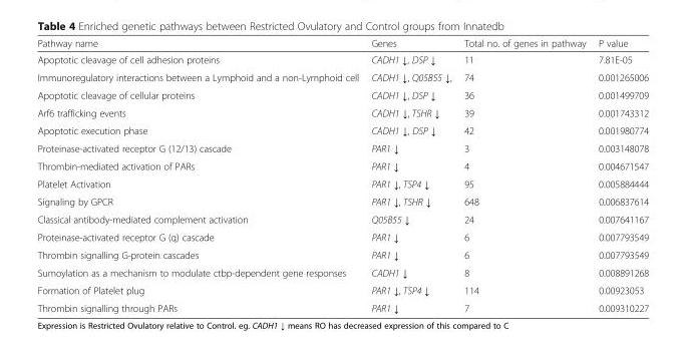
<table><thead><tr><td>Pathway name</td><td>Genes</td><td>Total no. of genes in pathway</td><td>P value</td></tr></thead><tbody><tr><td>Apoptotic cleavage of cell adhesion proteins</td><td>CADH1 ↓, DSP ↓</td><td>11</td><td>7.81E-05</td></tr><tr><td>Immunoregulatory interactions between a Lymphoid and a non-Lymphoid cell</td><td>CADH1 ↓, Q05B55 ↓,</td><td>74</td><td>0.001265006</td></tr><tr><td>Apoptotic cleavage of cellular proteins</td><td>CADH1 ↓, DSP ↓</td><td>36</td><td>0.001499709</td></tr><tr><td>Arf6 trafficking events</td><td>CADH1 ↓, TSHR ↓</td><td>39</td><td>0.001743312</td></tr><tr><td>Apoptotic execution phase</td><td>CADH1 ↓, DSP ↓</td><td>42</td><td>0.001980774</td></tr><tr><td>Proteinase-activated receptor G (12/13) cascade</td><td>PAR1 ↓</td><td>3</td><td>0.003148078</td></tr><tr><td>Thrombin-mediated activation of PARs</td><td>PAR1 ↓</td><td>4</td><td>0.004671547</td></tr><tr><td>Platelet Activation</td><td>PAR1 ↓, TSP4 ↓</td><td>95</td><td>0.005884444</td></tr><tr><td>Signaling by GPCR</td><td>PAR1 ↓, TSHR ↓</td><td>648</td><td>0.006837614</td></tr><tr><td>Classical antibody-mediated complement activation</td><td>Q05B55 ↓</td><td>24</td><td>0.007641167</td></tr><tr><td>Proteinase-activated receptor G (q) cascade</td><td>PAR1 ↓</td><td>6</td><td>0.007793549</td></tr><tr><td>Thrombin signalling G-protein cascades</td><td>PAR1 ↓</td><td>6</td><td>0.007793549</td></tr><tr><td>Sumoylation as a mechanism to modulate ctbp-dependent gene responses</td><td>CADH1 ↓</td><td>8</td><td>0.008891268</td></tr><tr><td>Formation of Platelet plug</td><td>PAR1 ↓, TSP4 ↓</td><td>114</td><td>0.00923053</td></tr><tr><td>Thrombin signalling through PARs</td><td>PAR1 ↓</td><td>7</td><td>0.009310227</td></tr></tbody></table>